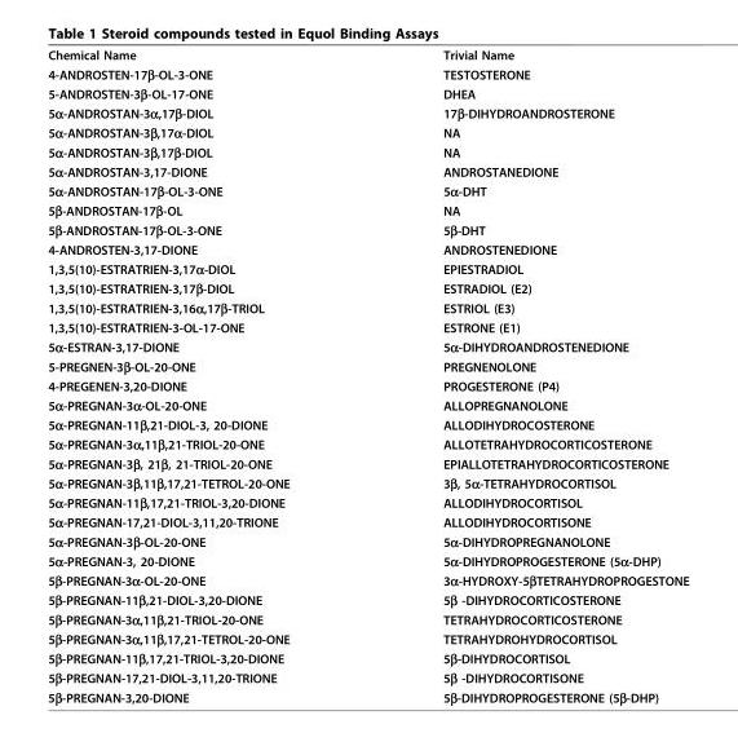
<table><tbody><tr><td>Chemical Name</td><td>Trivial Name</td></tr><tr><td>4-ANDROSTEN-17β-OL-3-ONE</td><td>TESTOSTERONE</td></tr><tr><td>5-ANDROSTEN-3β-OL-17-ONE</td><td>DHEA</td></tr><tr><td>5α-ANDROSTAN-3α,17β-DIOL</td><td>17β-DIHYDROANDROSTERONE</td></tr><tr><td>5α-ANDROSTAN-3β,17α-DIOL</td><td>NA</td></tr><tr><td>5α-ANDROSTAN-3β,17β-DIOL</td><td>NA</td></tr><tr><td>5α-ANDROSTAN-3,17-DIONE</td><td>ANDROSTANEDIONE</td></tr><tr><td>5α-ANDROSTAN-17β-OL-3-ONE</td><td>5α-DHT</td></tr><tr><td>5β-ANDROSTAN-17β-OL</td><td>NA</td></tr><tr><td>5β-ANDROSTAN-17β-OL-3-ONE</td><td>5β-DHT</td></tr><tr><td>4-ANDROSTEN-3,17-DIONE</td><td>ANDROSTENEDIONE</td></tr><tr><td>1,3,5(10)-ESTRATRIEN-3,17α-DIOL</td><td>EPIESTRADIOL</td></tr><tr><td>1,3,5(10)-ESTRATRIEN-3,17β-DIOL</td><td>ESTRADIOL (E2)</td></tr><tr><td>1,3,5(10)-ESTRATRIEN-3,16α,17β-TRIOL</td><td>ESTRIOL (E3)</td></tr><tr><td>1,3,5(10)-ESTRATRIEN-3-OL-17-ONE</td><td>ESTRONE (E1)</td></tr><tr><td>5α-ESTRAN-3,17-DIONE</td><td>5α-DIHYDROANDROSTENEDIONE</td></tr><tr><td>5-PREGNEN-3β-OL-20-ONE</td><td>PREGNENOLONE</td></tr><tr><td>4-PREGENEN-3,20-DIONE</td><td>PROGESTERONE (P4)</td></tr><tr><td>5α-PREGNAN-3α-OL-20-ONE</td><td>ALLOPREGNANOLONE</td></tr><tr><td>5α-PREGNAN-11β,21-DIOL-3, 20-DIONE</td><td>ALLODIHYDROCOSTERONE</td></tr><tr><td>5α-PREGNAN-3α,11β,21-TRIOL-20-ONE</td><td>ALLOTETRAHYDROCORTICOSTERONE</td></tr><tr><td>5α-PREGNAN-3β, 21β, 21-TRIOL-20-ONE</td><td>EPIALLOTETRAHYDROCORTICOSTERONE</td></tr><tr><td>5α-PREGNAN-3β,11β,17,21-TETROL-20-ONE</td><td>3β, 5α-TETRAHYDROCORTISOL</td></tr><tr><td>5α-PREGNAN-11β,17,21-TRIOL-3,20-DIONE</td><td>ALLODIHYDROCORTISOL</td></tr><tr><td>5α-PREGNAN-17,21-DIOL-3,11,20-TRIONE</td><td>ALLODIHYDROCORTISONE</td></tr><tr><td>5α-PREGNAN-3β-OL-20-ONE</td><td>5α-DIHYDROPREGNANOLONE</td></tr><tr><td>5α-PREGNAN-3, 20-DIONE</td><td>5α-DIHYDROPROGESTERONE (5α-DHP)</td></tr><tr><td>5β-PREGNAN-3α-OL-20-ONE</td><td>3α-HYDROXY-5βTETRAHYDROPROGESTONE</td></tr><tr><td>5β-PREGNAN-11β,21-DIOL-3,20-DIONE</td><td>5β -DIHYDROCORTICOSTERONE</td></tr><tr><td>5β-PREGNAN-3α,11β,21-TRIOL-20-ONE</td><td>TETRAHYDROCORTICOSTERONE</td></tr><tr><td>5β-PREGNAN-3α,11β,17,21-TETROL-20-ONE</td><td>TETRAHYDROHYDROCORTISOL</td></tr><tr><td>5β-PREGNAN-11β,17,21-TRIOL-3,20-DIONE</td><td>5β-DIHYDROCORTISOL</td></tr><tr><td>5β-PREGNAN-17,21-DIOL-3,11,20-TRIONE</td><td>5β -DIHYDROCORTISONE</td></tr><tr><td>5β-PREGNAN-3,20-DIONE</td><td>5β-DIHYDROPROGESTERONE (5β-DHP)</td></tr></tbody></table>